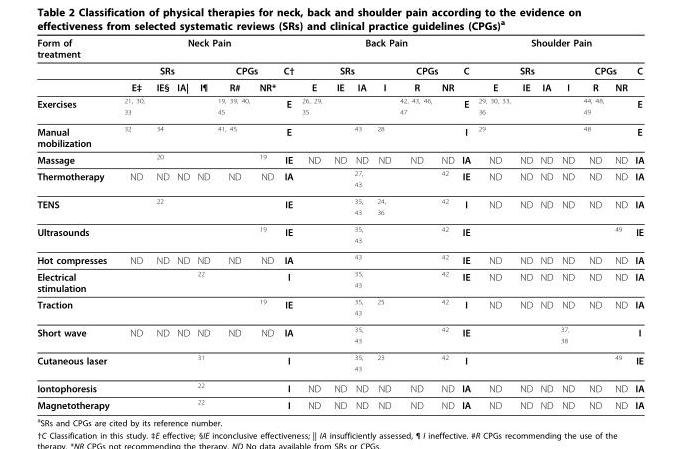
<table><thead><tr><td rowspan="3">Form of treatment</td><td colspan="7">Neck Pain</td><td colspan="7">Back Pain</td><td colspan="7">Shoulder Pain</td></tr><tr><td colspan="4">SRs</td><td colspan="2">CPGs</td><td rowspan="2">C†</td><td colspan="4">SRs</td><td colspan="2">CPGs</td><td rowspan="2">C</td><td colspan="4">SRs</td><td colspan="2">CPGs</td><td rowspan="2">C</td></tr><tr><td>E‡</td><td>IE§</td><td>IA|</td><td>I¶</td><td>R#</td><td>NR*</td><td>E</td><td>IE</td><td>IA</td><td>I</td><td>R</td><td>NR</td><td>E</td><td>IE</td><td>IA</td><td>I</td><td>R</td><td>NR</td></tr></thead><tbody><tr><td>Exercises</td><td><sup>21, 30, 33</sup></td><td></td><td></td><td></td><td><sup>19, 39, 40, 45</sup></td><td></td><td>E</td><td><sup>26, 29, 35</sup></td><td></td><td></td><td></td><td><sup>42, 43, 46, 47</sup></td><td></td><td>E</td><td><sup>29, 30, 33, 36</sup></td><td></td><td></td><td></td><td><sup>44, 48, 49</sup></td><td></td><td>E</td></tr><tr><td>Manual mobilization</td><td><sup>32</sup></td><td><sup>34</sup></td><td></td><td></td><td><sup>41, 45</sup></td><td></td><td>E</td><td></td><td></td><td><sup>43</sup></td><td><sup>28</sup></td><td></td><td></td><td>I</td><td><sup>29</sup></td><td></td><td></td><td></td><td><sup>48</sup></td><td></td><td>E</td></tr><tr><td>Massage</td><td></td><td><sup>20</sup></td><td></td><td></td><td></td><td><sup>19</sup></td><td>IE</td><td>ND</td><td>ND</td><td>ND</td><td>ND</td><td>ND</td><td>ND</td><td>IA</td><td>ND</td><td>ND</td><td>ND</td><td>ND</td><td>ND</td><td>ND</td><td>IA</td></tr><tr><td>Thermotherapy</td><td>ND</td><td>ND</td><td>ND</td><td>ND</td><td>ND</td><td>ND</td><td>IA</td><td></td><td></td><td><sup>27, 43</sup></td><td></td><td></td><td><sup>42</sup></td><td>IE</td><td>ND</td><td>ND</td><td>ND</td><td>ND</td><td>ND</td><td>ND</td><td>IA</td></tr><tr><td>TENS</td><td></td><td><sup>22</sup></td><td></td><td></td><td></td><td></td><td>IE</td><td></td><td></td><td><sup>35, 43</sup></td><td><sup>24, 36</sup></td><td></td><td><sup>42</sup></td><td>I</td><td>ND</td><td>ND</td><td>ND</td><td>ND</td><td>ND</td><td>ND</td><td>IA</td></tr><tr><td>Ultrasounds</td><td></td><td></td><td></td><td></td><td></td><td><sup>19</sup></td><td>IE</td><td></td><td></td><td><sup>35, 43</sup></td><td></td><td></td><td><sup>42</sup></td><td>IE</td><td></td><td></td><td></td><td></td><td></td><td><sup>49</sup></td><td>IE</td></tr><tr><td>Hot compresses</td><td>ND</td><td>ND</td><td>ND</td><td>ND</td><td>ND</td><td>ND</td><td>IA</td><td></td><td></td><td><sup>43</sup></td><td></td><td></td><td><sup>42</sup></td><td>IE</td><td>ND</td><td>ND</td><td>ND</td><td>ND</td><td>ND</td><td>ND</td><td>IA</td></tr><tr><td>Electrical stimulation</td><td></td><td></td><td></td><td><sup>22</sup></td><td></td><td></td><td>I</td><td></td><td></td><td><sup>35, 43</sup></td><td></td><td></td><td><sup>42</sup></td><td>IE</td><td>ND</td><td>ND</td><td>ND</td><td>ND</td><td>ND</td><td>ND</td><td>IA</td></tr><tr><td>Traction</td><td></td><td></td><td></td><td></td><td></td><td><sup>19</sup></td><td>IE</td><td></td><td></td><td><sup>35, 43</sup></td><td><sup>25</sup></td><td></td><td><sup>42</sup></td><td>I</td><td>ND</td><td>ND</td><td>ND</td><td>ND</td><td>ND</td><td>ND</td><td>IA</td></tr><tr><td>Short wave</td><td>ND</td><td>ND</td><td>ND</td><td>ND</td><td>ND</td><td>ND</td><td>IA</td><td></td><td></td><td><sup>35, 43</sup></td><td></td><td></td><td><sup>42</sup></td><td>IE</td><td></td><td></td><td></td><td><sup>37, 38</sup></td><td></td><td></td><td>I</td></tr><tr><td>Cutaneous laser</td><td></td><td></td><td></td><td><sup>31</sup></td><td></td><td></td><td>I</td><td></td><td></td><td><sup>35, 43</sup></td><td><sup>23</sup></td><td></td><td><sup>42</sup></td><td>I</td><td></td><td></td><td></td><td></td><td></td><td><sup>49</sup></td><td>IE</td></tr><tr><td>Iontophoresis</td><td></td><td></td><td></td><td><sup>22</sup></td><td></td><td></td><td>I</td><td>ND</td><td>ND</td><td>ND</td><td>ND</td><td>ND</td><td>ND</td><td>IA</td><td>ND</td><td>ND</td><td>ND</td><td>ND</td><td>ND</td><td>ND</td><td>IA</td></tr><tr><td>Magnetotherapy</td><td></td><td></td><td></td><td><sup>22</sup></td><td></td><td></td><td>I</td><td>ND</td><td>ND</td><td>ND</td><td>ND</td><td>ND</td><td>ND</td><td>IA</td><td>ND</td><td>ND</td><td>ND</td><td>ND</td><td>ND</td><td>ND</td><td>IA</td></tr></tbody></table>